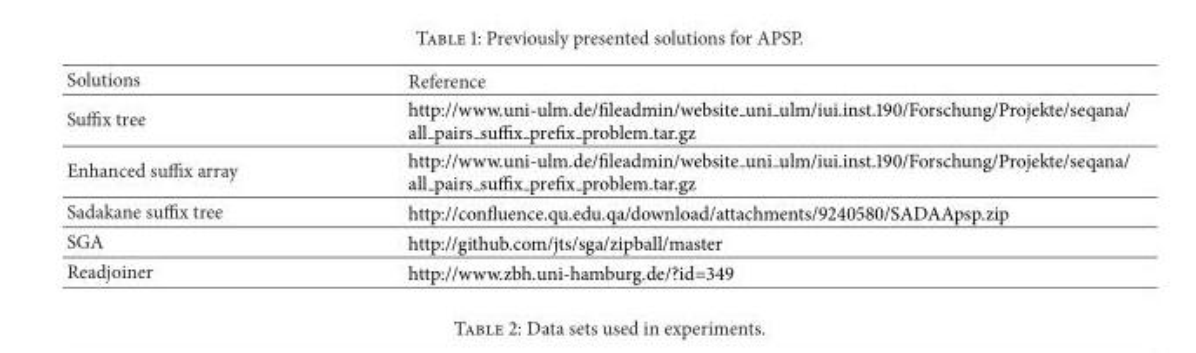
<table><thead><tr><td>Solutions</td><td>Reference</td></tr></thead><tbody><tr><td>Suffix tree</td><td>http://www.uni-ulm.de/fileadmin/website <sub>uni</sub> ulm/iui.inst.190/Forschung/Projekte/seqana/ all <sub>pairs</sub> suffix <sub>prefix</sub> problem.tar.gz</td></tr><tr><td>Enhanced suffix array</td><td>http://www.uni-ulm.de/fileadmin/website <sub>uni</sub> ulm/iui.inst.190/Forschung/Projekte/seqana/ all <sub>pairs</sub> suffix <sub>prefix</sub> problem.tar.gz</td></tr><tr><td>Sadakane suffix tree</td><td>http://confluence.qu.edu.qa/download/attachments/9240580/SADAApsp.zip</td></tr><tr><td>SGA</td><td>http://github.com/jts/sga/zipball/master</td></tr><tr><td>Readjoiner</td><td>http://www.zbh.uni-hamburg.de/?id=349</td></tr></tbody></table>